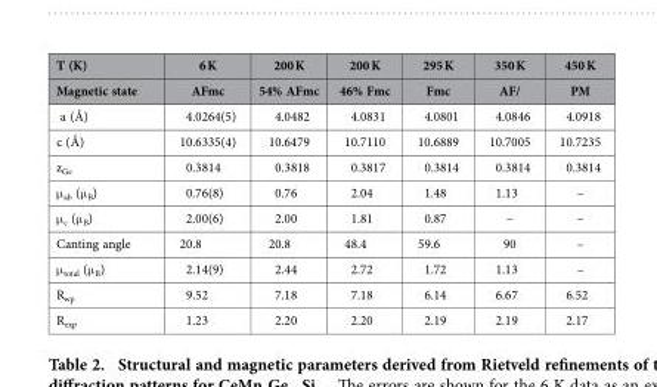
<table><thead><tr><td rowspan="2">T (K) Magnetic state</td><td rowspan="2">6 K AFmc</td><td rowspan="2">200 K 54% AFmc</td><td rowspan="2">200 K 46% Fmc</td><td rowspan="2">295 K Fmc</td><td rowspan="2">350 K AF/</td><td rowspan="2">450 K PM</td></tr><tr></tr></thead><tbody><tr><td>a (Å)</td><td>4.0264(5)</td><td>4.0482</td><td>4.0831</td><td>4.0801</td><td>4.0846</td><td>4.0918</td></tr><tr><td>c (Å)</td><td>10.6335(4)</td><td>10.6479</td><td>10.7110</td><td>10.6889</td><td>10.7005</td><td>10.7235</td></tr><tr><td>z<sub>Ge</sub></td><td>0.3814</td><td>0.3818</td><td>0.3817</td><td>0.3814</td><td>0.3814</td><td>0.3814</td></tr><tr><td>μ <sub>ab</sub> (μ <sub>B</sub>)</td><td>0.76(8)</td><td>0.76</td><td>2.04</td><td>1.48</td><td>1.13</td><td>–</td></tr><tr><td>μ <sub>c</sub> (μ <sub>B</sub>)</td><td>2.00(6)</td><td>2.00</td><td>1.81</td><td>0.87</td><td>–</td><td>–</td></tr><tr><td>Canting angle</td><td>20.8</td><td>20.8</td><td>48.4</td><td>59.6</td><td>90</td><td>–</td></tr><tr><td>μ <sub>total</sub> (μ <sub>B</sub>)</td><td>2.14(9)</td><td>2.44</td><td>2.72</td><td>1.72</td><td>1.13</td><td>–</td></tr><tr><td>R<sub>wp</sub></td><td>9.52</td><td>7.18</td><td>7.18</td><td>6.14</td><td>6.67</td><td>6.52</td></tr><tr><td>R<sub>exp</sub></td><td>1.23</td><td>2.20</td><td>2.20</td><td>2.19</td><td>2.19</td><td>2.17</td></tr></tbody></table>